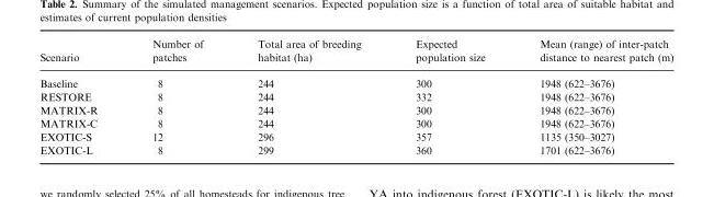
<table><thead><tr><td>Scenario</td><td>Number of patches</td><td>Total area of breeding habitat (ha)</td><td>Expected population size</td><td>Mean (range) of inter-patch distance to nearest patch (m)</td></tr></thead><tbody><tr><td>Baseline</td><td>8</td><td>244</td><td>300</td><td>1948 (622–3676)</td></tr><tr><td>RESTORE</td><td>8</td><td>244</td><td>332</td><td>1948 (622–3676)</td></tr><tr><td>MATRIX-R</td><td>8</td><td>244</td><td>300</td><td>1948 (622–3676)</td></tr><tr><td>MATRIX-C</td><td>8</td><td>244</td><td>300</td><td>1948 (622–3676)</td></tr><tr><td>EXOTIC-S</td><td>12</td><td>296</td><td>357</td><td>1135 (350–3027)</td></tr><tr><td>EXOTIC-L</td><td>8</td><td>299</td><td>360</td><td>1701 (622–3676)</td></tr></tbody></table>